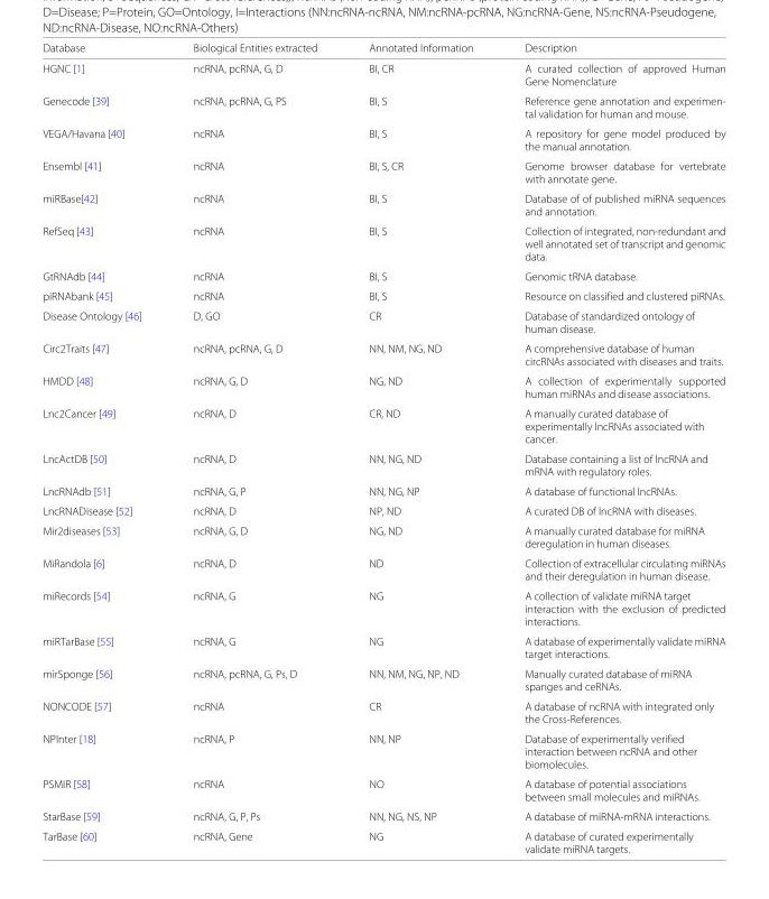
<table><thead><tr><td>Database</td><td>Biological Entities extracted</td><td>Annotated Information</td><td>Description</td></tr></thead><tbody><tr><td>HGNC [1]</td><td>ncRNA, pcRNA, G, D</td><td>BI, CR</td><td>A curated collection of approved Human Gene Nomenclature</td></tr><tr><td>Genecode [39]</td><td>ncRNA, pcRNA, G, PS</td><td>BI, S</td><td>Reference gene annotation and experimen- tal validation for human and mouse.</td></tr><tr><td>VEGA/Havana [40]</td><td>ncRNA</td><td>BI, S</td><td>A repository for gene model produced by the manual annotation.</td></tr><tr><td>Ensembl [41]</td><td>ncRNA</td><td>BI, S, CR</td><td>Genome browser database for vertebrate with annotate gene.</td></tr><tr><td>miRBase[42]</td><td>ncRNA</td><td>BI, S</td><td>Database of of published miRNA sequences and annotation.</td></tr><tr><td>RefSeq [43]</td><td>ncRNA</td><td>BI, S</td><td>Collection of integrated, non-redundant and well annotated set of transcript and genomic data.</td></tr><tr><td>GtRNAdb [44]</td><td>ncRNA</td><td>BI, S</td><td>Genomic tRNA database.</td></tr><tr><td>piRNAbank [45]</td><td>ncRNA</td><td>BI, S</td><td>Resource on classified and clustered piRNAs.</td></tr><tr><td>Disease Ontology [46]</td><td>D, GO</td><td>CR</td><td>Database of standardized ontology of human disease.</td></tr><tr><td>Circ2Traits [47]</td><td>ncRNA, pcRNA, G, D</td><td>NN, NM, NG, ND</td><td>A comprehensive database of human circRNAs associated with diseases and traits.</td></tr><tr><td>HMDD [48]</td><td>ncRNA, G, D</td><td>NG, ND</td><td>A collection of experimentally supported human miRNAs and disease associations.</td></tr><tr><td>Lnc2Cancer [49]</td><td>ncRNA, D</td><td>CR, ND</td><td>A manually curated database of experimentally lncRNAs associated with cancer.</td></tr><tr><td>LncActDB [50]</td><td>ncRNA, D</td><td>NN, NG, ND</td><td>Database containing a list of lncRNA and mRNA with regulatory roles.</td></tr><tr><td>LncRNAdb [51]</td><td>ncRNA, G, P</td><td>NN, NG, NP</td><td>A database of functional lncRNAs.</td></tr><tr><td>LncRNADisease [52]</td><td>ncRNA, D</td><td>NP, ND</td><td>A curated DB of lncRNA with diseases.</td></tr><tr><td>Mir2diseases [53]</td><td>ncRNA, G, D</td><td>NG, ND</td><td>A manually curated database for miRNA deregulation in human diseases.</td></tr><tr><td>MiRandola [6]</td><td>ncRNA, D</td><td>ND</td><td>Collection of extracellular circulating miRNAs and their deregulation in human disease.</td></tr><tr><td>miRecords [54]</td><td>ncRNA, G</td><td>NG</td><td>A collection of validate miRNA target interaction with the exclusion of predicted interactions.</td></tr><tr><td>miRTarBase [55]</td><td>ncRNA, G</td><td>NG</td><td>A database of experimentally validate miRNA target interactions.</td></tr><tr><td>mirSponge [56]</td><td>ncRNA, pcRNA, G, Ps, D</td><td>NN, NM, NG, NP, ND</td><td>Manually curated database of miRNA spanges and ceRNAs.</td></tr><tr><td>NONCODE [57]</td><td>ncRNA</td><td>CR</td><td>A database of ncRNA with integrated only the Cross-References.</td></tr><tr><td>NPInter [18]</td><td>ncRNA, P</td><td>NN, NP</td><td>Database of experimentally verified interaction between ncRNA and other biomolecules.</td></tr><tr><td>PSMIR [58]</td><td>ncRNA</td><td>NO</td><td>A database of potential associations between small molecules and miRNAs.</td></tr><tr><td>StarBase [59]</td><td>ncRNA, G, P, Ps</td><td>NN, NG, NS, NP</td><td>A database of miRNA-mRNA interactions.</td></tr><tr><td>TarBase [60]</td><td>ncRNA, Gene</td><td>NG</td><td>A database of curated experimentally validate miRNA targets.</td></tr></tbody></table>